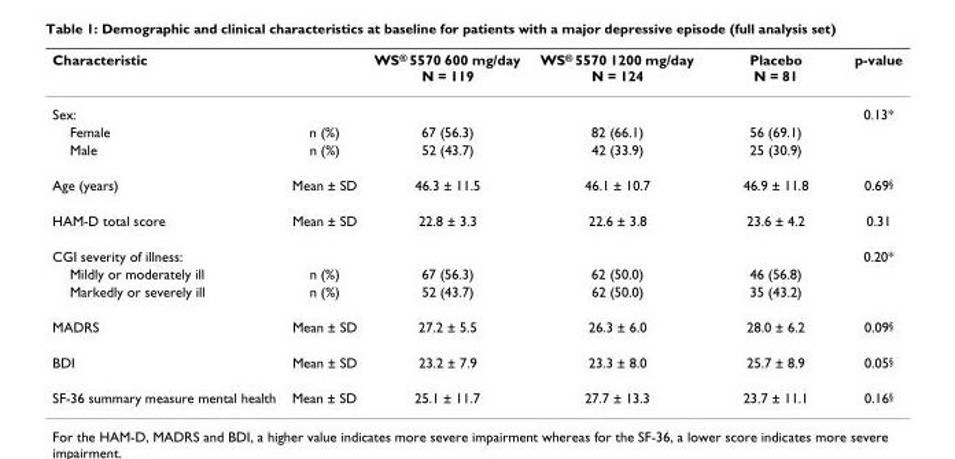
<table><thead><tr><td>Characteristic</td><td></td><td>WS® 5570 600 mg/day N = 119</td><td>WS® 5570 1200 mg/day N = 124</td><td>Placebo N = 81</td><td>p-value</td></tr></thead><tbody><tr><td>Sex:</td><td></td><td></td><td></td><td></td><td>0.13*</td></tr><tr><td>Female</td><td>n (%)</td><td>67 (56.3)</td><td>82 (66.1)</td><td>56 (69.1)</td><td></td></tr><tr><td>Male</td><td>n (%)</td><td>52 (43.7)</td><td>42 (33.9)</td><td>25 (30.9)</td><td></td></tr><tr><td>Age (years)</td><td>Mean ± SD</td><td>46.3 ± 11.5</td><td>46.1 ± 10.7</td><td>46.9 ± 11.8</td><td>0.69§</td></tr><tr><td>HAM-D total score</td><td>Mean ± SD</td><td>22.8 ± 3.3</td><td>22.6 ± 3.8</td><td>23.6 ± 4.2</td><td>0.31</td></tr><tr><td>CGI severity of illness:</td><td></td><td></td><td></td><td></td><td>0.20*</td></tr><tr><td>Mildly or moderately ill</td><td>n (%)</td><td>67 (56.3)</td><td>62 (50.0)</td><td>46 (56.8)</td><td></td></tr><tr><td>Markedly or severely ill</td><td>n (%)</td><td>52 (43.7)</td><td>62 (50.0)</td><td>35 (43.2)</td><td></td></tr><tr><td>MADRS</td><td>Mean ± SD</td><td>27.2 ± 5.5</td><td>26.3 ± 6.0</td><td>28.0 ± 6.2</td><td>0.09§</td></tr><tr><td>BDI</td><td>Mean ± SD</td><td>23.2 ± 7.9</td><td>23.3 ± 8.0</td><td>25.7 ± 8.9</td><td>0.05§</td></tr><tr><td>SF-36 summary measure mental health</td><td>Mean ± SD</td><td>25.1 ± 11.7</td><td>27.7 ± 13.3</td><td>23.7 ± 11.1</td><td>0.16§</td></tr></tbody></table>